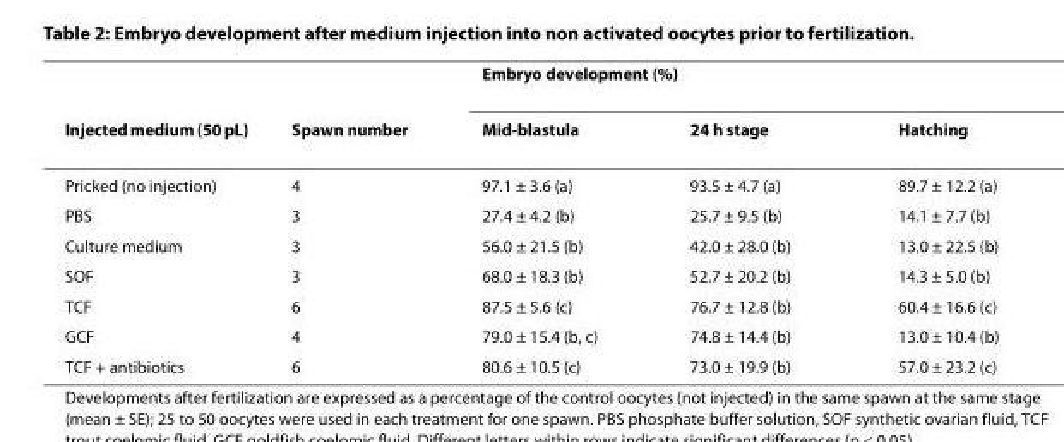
<table><thead><tr><td rowspan="2">Injected medium (50 pL)</td><td rowspan="2">Spawn number</td><td colspan="3">Embryo development (%)</td></tr><tr><td>Mid-blastula</td><td>24 h stage</td><td>Hatching</td></tr></thead><tbody><tr><td>Pricked (no injection)</td><td>4</td><td>97.1 ± 3.6 (a)</td><td>93.5 ± 4.7 (a)</td><td>89.7 ± 12.2 (a)</td></tr><tr><td>PBS</td><td>3</td><td>27.4 ± 4.2 (b)</td><td>25.7 ± 9.5 (b)</td><td>14.1 ± 7.7 (b)</td></tr><tr><td>Culture medium</td><td>3</td><td>56.0 ± 21.5 (b)</td><td>42.0 ± 28.0 (b)</td><td>13.0 ± 22.5 (b)</td></tr><tr><td>SOF</td><td>3</td><td>68.0 ± 18.3 (b)</td><td>52.7 ± 20.2 (b)</td><td>14.3 ± 5.0 (b)</td></tr><tr><td>TCF</td><td>6</td><td>87.5 ± 5.6 (c)</td><td>76.7 ± 12.8 (b)</td><td>60.4 ± 16.6 (c)</td></tr><tr><td>GCF</td><td>4</td><td>79.0 ± 15.4 (b, c)</td><td>74.8 ± 14.4 (b)</td><td>13.0 ± 10.4 (b)</td></tr><tr><td>TCF + antibiotics</td><td>6</td><td>80.6 ± 10.5 (c)</td><td>73.0 ± 19.9 (b)</td><td>57.0 ± 23.2 (c)</td></tr></tbody></table>